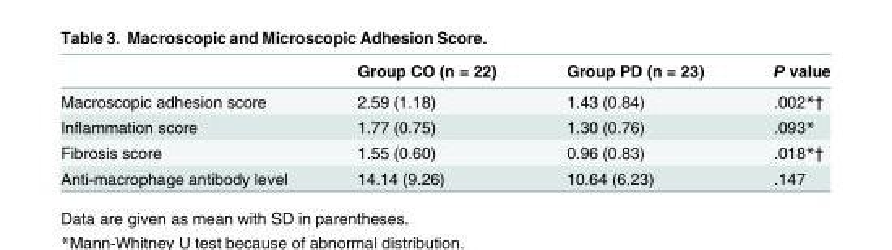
<table><thead><tr><td></td><td>Group CO (n = 22)</td><td>Group PD (n = 23)</td><td>P value</td></tr></thead><tbody><tr><td>Macroscopic adhesion score</td><td>2.59 (1.18)</td><td>1.43 (0.84)</td><td>.002*†</td></tr><tr><td>Inflammation score</td><td>1.77 (0.75)</td><td>1.30 (0.76)</td><td>.093*</td></tr><tr><td>Fibrosis score</td><td>1.55 (0.60)</td><td>0.96 (0.83)</td><td>.018*†</td></tr><tr><td>Anti-macrophage antibody level</td><td>14.14 (9.26)</td><td>10.64 (6.23)</td><td>.147</td></tr></tbody></table>